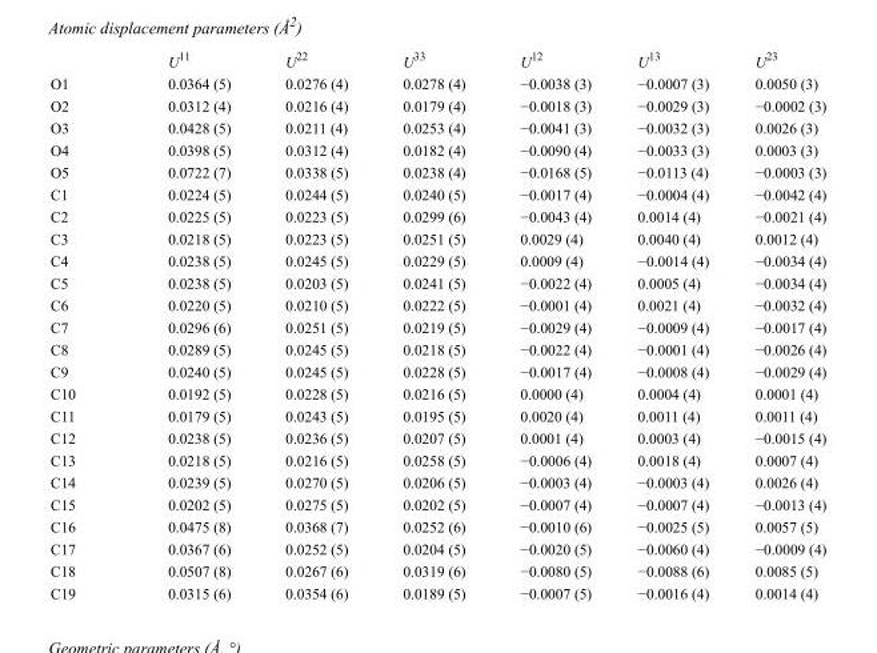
<table><thead><tr><td></td><td>U<sup>11</sup></td><td>U<sup>22</sup></td><td>U<sup>33</sup></td><td>U<sup>12</sup></td><td>U<sup>13</sup></td><td>U<sup>23</sup></td></tr></thead><tbody><tr><td>O1</td><td>0.0364 (5)</td><td>0.0276 (4)</td><td>0.0278 (4)</td><td>−0.0038 (3)</td><td>−0.0007 (3)</td><td>0.0050 (3)</td></tr><tr><td>O2</td><td>0.0312 (4)</td><td>0.0216 (4)</td><td>0.0179 (4)</td><td>−0.0018 (3)</td><td>−0.0029 (3)</td><td>−0.0002 (3)</td></tr><tr><td>O3</td><td>0.0428 (5)</td><td>0.0211 (4)</td><td>0.0253 (4)</td><td>−0.0041 (3)</td><td>−0.0032 (3)</td><td>0.0026 (3)</td></tr><tr><td>O4</td><td>0.0398 (5)</td><td>0.0312 (4)</td><td>0.0182 (4)</td><td>−0.0090 (4)</td><td>−0.0033 (3)</td><td>0.0003 (3)</td></tr><tr><td>O5</td><td>0.0722 (7)</td><td>0.0338 (5)</td><td>0.0238 (4)</td><td>−0.0168 (5)</td><td>−0.0113 (4)</td><td>−0.0003 (3)</td></tr><tr><td>C1</td><td>0.0224 (5)</td><td>0.0244 (5)</td><td>0.0240 (5)</td><td>−0.0017 (4)</td><td>−0.0004 (4)</td><td>−0.0042 (4)</td></tr><tr><td>C2</td><td>0.0225 (5)</td><td>0.0223 (5)</td><td>0.0299 (6)</td><td>−0.0043 (4)</td><td>0.0014 (4)</td><td>−0.0021 (4)</td></tr><tr><td>C3</td><td>0.0218 (5)</td><td>0.0223 (5)</td><td>0.0251 (5)</td><td>0.0029 (4)</td><td>0.0040 (4)</td><td>0.0012 (4)</td></tr><tr><td>C4</td><td>0.0238 (5)</td><td>0.0245 (5)</td><td>0.0229 (5)</td><td>0.0009 (4)</td><td>−0.0014 (4)</td><td>−0.0034 (4)</td></tr><tr><td>C5</td><td>0.0238 (5)</td><td>0.0203 (5)</td><td>0.0241 (5)</td><td>−0.0022 (4)</td><td>0.0005 (4)</td><td>−0.0034 (4)</td></tr><tr><td>C6</td><td>0.0220 (5)</td><td>0.0210 (5)</td><td>0.0222 (5)</td><td>−0.0001 (4)</td><td>0.0021 (4)</td><td>−0.0032 (4)</td></tr><tr><td>C7</td><td>0.0296 (6)</td><td>0.0251 (5)</td><td>0.0219 (5)</td><td>−0.0029 (4)</td><td>−0.0009 (4)</td><td>−0.0017 (4)</td></tr><tr><td>C8</td><td>0.0289 (5)</td><td>0.0245 (5)</td><td>0.0218 (5)</td><td>−0.0022 (4)</td><td>−0.0001 (4)</td><td>−0.0026 (4)</td></tr><tr><td>C9</td><td>0.0240 (5)</td><td>0.0245 (5)</td><td>0.0228 (5)</td><td>−0.0017 (4)</td><td>−0.0008 (4)</td><td>−0.0029 (4)</td></tr><tr><td>C10</td><td>0.0192 (5)</td><td>0.0228 (5)</td><td>0.0216 (5)</td><td>0.0000 (4)</td><td>0.0004 (4)</td><td>0.0001 (4)</td></tr><tr><td>C11</td><td>0.0179 (5)</td><td>0.0243 (5)</td><td>0.0195 (5)</td><td>0.0020 (4)</td><td>0.0011 (4)</td><td>0.0011 (4)</td></tr><tr><td>C12</td><td>0.0238 (5)</td><td>0.0236 (5)</td><td>0.0207 (5)</td><td>0.0001 (4)</td><td>0.0003 (4)</td><td>−0.0015 (4)</td></tr><tr><td>C13</td><td>0.0218 (5)</td><td>0.0216 (5)</td><td>0.0258 (5)</td><td>−0.0006 (4)</td><td>0.0018 (4)</td><td>0.0007 (4)</td></tr><tr><td>C14</td><td>0.0239 (5)</td><td>0.0270 (5)</td><td>0.0206 (5)</td><td>−0.0003 (4)</td><td>−0.0003 (4)</td><td>0.0026 (4)</td></tr><tr><td>C15</td><td>0.0202 (5)</td><td>0.0275 (5)</td><td>0.0202 (5)</td><td>−0.0007 (4)</td><td>−0.0007 (4)</td><td>−0.0013 (4)</td></tr><tr><td>C16</td><td>0.0475 (8)</td><td>0.0368 (7)</td><td>0.0252 (6)</td><td>−0.0010 (6)</td><td>−0.0025 (5)</td><td>0.0057 (5)</td></tr><tr><td>C17</td><td>0.0367 (6)</td><td>0.0252 (5)</td><td>0.0204 (5)</td><td>−0.0020 (5)</td><td>−0.0060 (4)</td><td>−0.0009 (4)</td></tr><tr><td>C18</td><td>0.0507 (8)</td><td>0.0267 (6)</td><td>0.0319 (6)</td><td>−0.0080 (5)</td><td>−0.0088 (6)</td><td>0.0085 (5)</td></tr><tr><td>C19</td><td>0.0315 (6)</td><td>0.0354 (6)</td><td>0.0189 (5)</td><td>−0.0007 (5)</td><td>−0.0016 (4)</td><td>0.0014 (4)</td></tr></tbody></table>